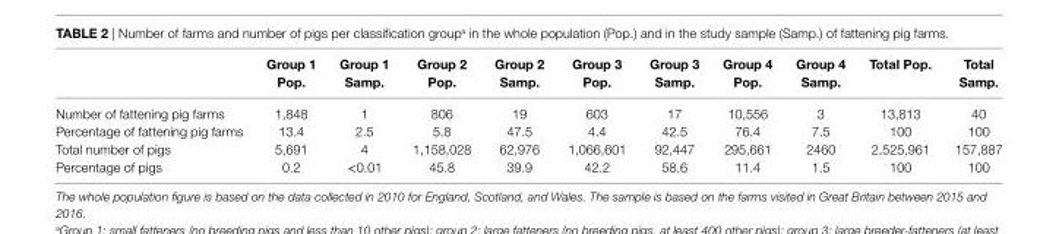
<table><thead><tr><td></td><td>group 1 Pop.</td><td>group 1 samp.</td><td>group 2 Pop.</td><td>group 2 samp.</td><td>group 3 Pop.</td><td>group 3 samp.</td><td>group 4 Pop.</td><td>group 4 samp.</td><td>Total Pop.</td><td>Total samp.</td></tr></thead><tbody><tr><td>Number of fattening pig farms</td><td>1,848</td><td>1</td><td>806</td><td>19</td><td>603</td><td>17</td><td>10,556</td><td>3</td><td>13,813</td><td>40</td></tr><tr><td>Percentage of fattening pig farms</td><td>13.4</td><td>2.5</td><td>5.8</td><td>47.5</td><td>4.4</td><td>42.5</td><td>76.4</td><td>7.5</td><td>100</td><td>100</td></tr><tr><td>Total number of pigs</td><td>5,691</td><td>4</td><td>1,158,028</td><td>62,976</td><td>1,066,601</td><td>92,447</td><td>295,661</td><td>2460</td><td>2,525,961</td><td>157,887</td></tr><tr><td>Percentage of pigs</td><td>0.2</td><td>&lt;0.01</td><td>45.8</td><td>39.9</td><td>42.2</td><td>58.6</td><td>11.4</td><td>1.5</td><td>100</td><td>100</td></tr></tbody></table>